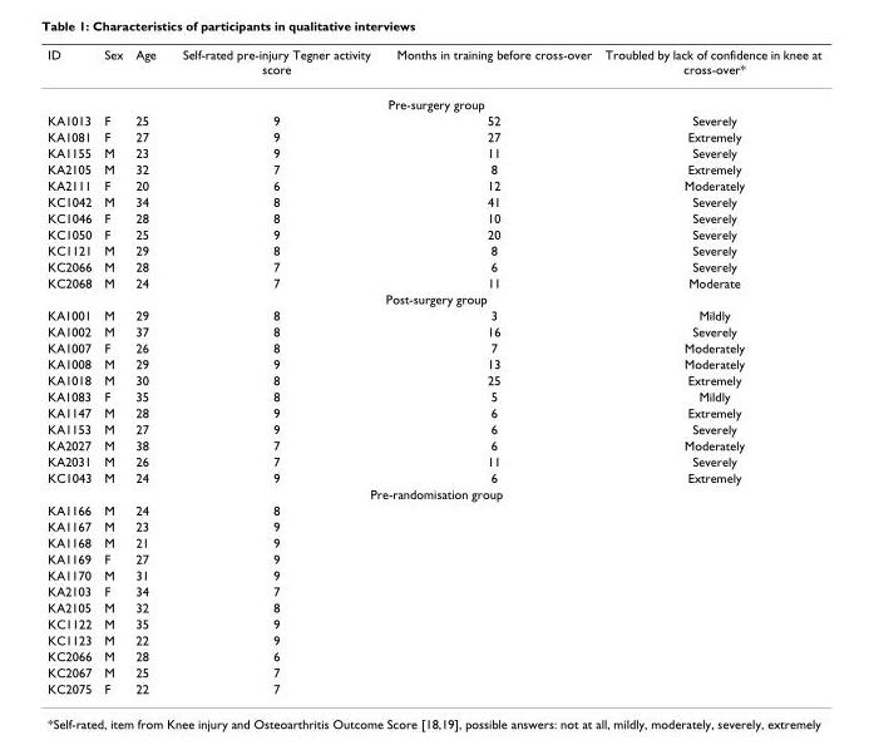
<table><thead><tr><td>ID</td><td>Sex</td><td>Age</td><td>Self-rated pre-injury Tegner activity score</td><td>Months in training before cross-over</td><td>Troubled by lack of confidence in knee at cross-over*</td></tr></thead><tbody><tr><td colspan="6">Pre-surgery group</td></tr><tr><td>KA1013</td><td>F</td><td>25</td><td>9</td><td>52</td><td>Severely</td></tr><tr><td>KA1081</td><td>F</td><td>27</td><td>9</td><td>27</td><td>Extremely</td></tr><tr><td>KA1155</td><td>M</td><td>23</td><td>9</td><td>11</td><td>Severely</td></tr><tr><td>KA2105</td><td>M</td><td>32</td><td>7</td><td>8</td><td>Extremely</td></tr><tr><td>KA2111</td><td>F</td><td>20</td><td>6</td><td>12</td><td>Moderately</td></tr><tr><td>KC1042</td><td>M</td><td>34</td><td>8</td><td>41</td><td>Severely</td></tr><tr><td>KC1046</td><td>F</td><td>28</td><td>8</td><td>10</td><td>Severely</td></tr><tr><td>KC1050</td><td>F</td><td>25</td><td>9</td><td>20</td><td>Severely</td></tr><tr><td>KC1121</td><td>M</td><td>29</td><td>8</td><td>8</td><td>Severely</td></tr><tr><td>KC2066</td><td>M</td><td>28</td><td>7</td><td>6</td><td>Severely</td></tr><tr><td>KC2068</td><td>M</td><td>24</td><td>7</td><td>11</td><td>Moderate</td></tr><tr><td colspan="6">Post-surgery group</td></tr><tr><td>KA1001</td><td>M</td><td>29</td><td>8</td><td>3</td><td>Mildly</td></tr><tr><td>KA1002</td><td>M</td><td>37</td><td>8</td><td>16</td><td>Severely</td></tr><tr><td>KA1007</td><td>F</td><td>26</td><td>8</td><td>7</td><td>Moderately</td></tr><tr><td>KA1008</td><td>M</td><td>29</td><td>9</td><td>13</td><td>Moderately</td></tr><tr><td>KA1018</td><td>M</td><td>30</td><td>8</td><td>25</td><td>Extremely</td></tr><tr><td>KA1083</td><td>F</td><td>35</td><td>8</td><td>5</td><td>Mildly</td></tr><tr><td>KA1147</td><td>M</td><td>28</td><td>9</td><td>6</td><td>Extremely</td></tr><tr><td>KA1153</td><td>M</td><td>27</td><td>9</td><td>6</td><td>Severely</td></tr><tr><td>KA2027</td><td>M</td><td>38</td><td>7</td><td>6</td><td>Moderately</td></tr><tr><td>KA2031</td><td>M</td><td>26</td><td>7</td><td>11</td><td>Severely</td></tr><tr><td>KC1043</td><td>M</td><td>24</td><td>9</td><td>6</td><td>Extremely</td></tr><tr><td colspan="6">Pre-randomisation group</td></tr><tr><td>KA1166</td><td>M</td><td>24</td><td>8</td><td></td><td></td></tr><tr><td>KA1167</td><td>M</td><td>23</td><td>9</td><td></td><td></td></tr><tr><td>KA1168</td><td>M</td><td>21</td><td>9</td><td></td><td></td></tr><tr><td>KA1169</td><td>F</td><td>27</td><td>9</td><td></td><td></td></tr><tr><td>KA1170</td><td>M</td><td>31</td><td>9</td><td></td><td></td></tr><tr><td>KA2103</td><td>F</td><td>34</td><td>7</td><td></td><td></td></tr><tr><td>KA2105</td><td>M</td><td>32</td><td>8</td><td></td><td></td></tr><tr><td>KC1122</td><td>M</td><td>35</td><td>9</td><td></td><td></td></tr><tr><td>KC1123</td><td>M</td><td>22</td><td>9</td><td></td><td></td></tr><tr><td>KC2066</td><td>M</td><td>28</td><td>6</td><td></td><td></td></tr><tr><td>KC2067</td><td>M</td><td>25</td><td>7</td><td></td><td></td></tr><tr><td>KC2075</td><td>F</td><td>22</td><td>7</td><td></td><td></td></tr></tbody></table>